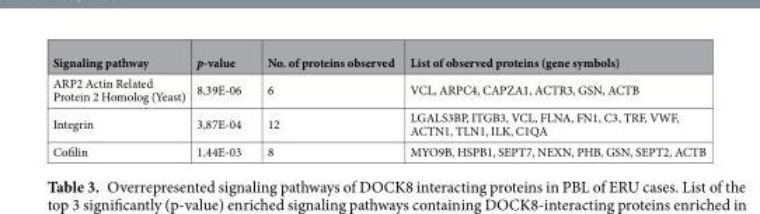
<table><thead><tr><td>Signaling pathway</td><td>p-value</td><td>No. of proteins observed</td><td>List of observed proteins (gene symbols)</td></tr></thead><tbody><tr><td>ARP2 Actin Related Protein 2 Homolog (Yeast)</td><td>8,39E-06</td><td>6</td><td>VCL, ARPC4, CAPZA1, ACTR3, GSN, ACTB</td></tr><tr><td>Integrin</td><td>3,87E-04</td><td>12</td><td>LGALS3BP, ITGB3, VCL, FLNA, FN1, C3, TRF, VWF, ACTN1, TLN1, ILK, C1QA</td></tr><tr><td>Cofilin</td><td>1,44E-03</td><td>8</td><td>MYO9B, HSPB1, SEPT7, NEXN, PHB, GSN, SEPT2, ACTB</td></tr></tbody></table>